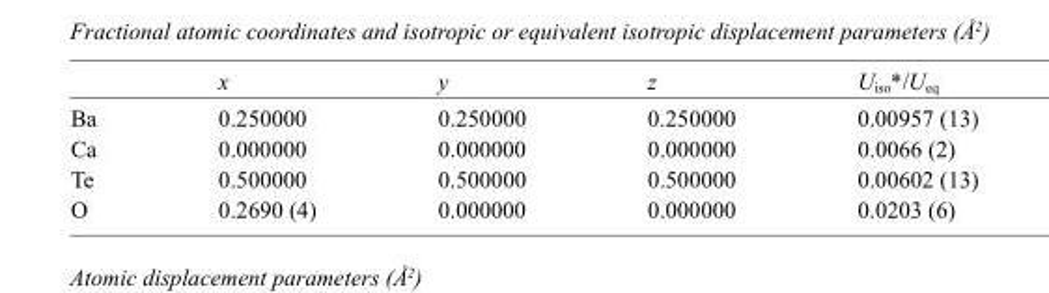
<table><thead><tr><td></td><td>x</td><td>y</td><td>z</td><td>U<sub>iso</sub>*/U<sub>eq</sub></td></tr></thead><tbody><tr><td>Ba</td><td>0.250000</td><td>0.250000</td><td>0.250000</td><td>0.00957 (13)</td></tr><tr><td>Ca</td><td>0.000000</td><td>0.000000</td><td>0.000000</td><td>0.0066 (2)</td></tr><tr><td>Te</td><td>0.500000</td><td>0.500000</td><td>0.500000</td><td>0.00602 (13)</td></tr><tr><td>O</td><td>0.2690 (4)</td><td>0.000000</td><td>0.000000</td><td>0.0203 (6)</td></tr></tbody></table>